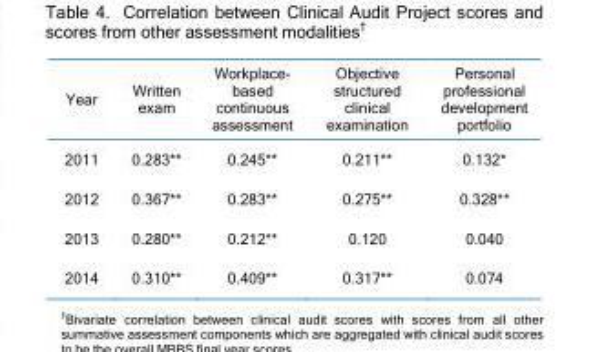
<table><thead><tr><td>Year</td><td>Written exam</td><td>Workplace- based continuous assessment</td><td>Objective structured clinical examination</td><td>Personal professional development portfolio</td></tr></thead><tbody><tr><td>2011</td><td>0.283**</td><td>0.245**</td><td>0.211**</td><td>0.132*</td></tr><tr><td>2012</td><td>0.367**</td><td>0.283**</td><td>0.275**</td><td>0.328**</td></tr><tr><td>2013</td><td>0.280**</td><td>0.212**</td><td>0.120</td><td>0.040</td></tr><tr><td>2014</td><td>0.310**</td><td>0.409**</td><td>0.317**</td><td>0.074</td></tr></tbody></table>